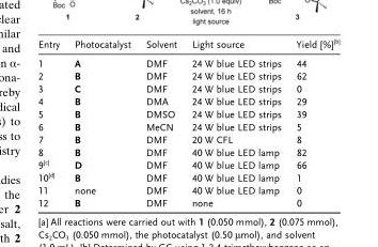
<table><thead><tr><td>Entry</td><td>Photocatalyst</td><td>Solvent</td><td>Light source</td><td>Yield [%]<sup>[b]</sup></td></tr></thead><tbody><tr><td>1</td><td>A</td><td>DMF</td><td>24 W blue LED strips</td><td>44</td></tr><tr><td>2</td><td>B</td><td>DMF</td><td>24 W blue LED strips</td><td>62</td></tr><tr><td>3</td><td>C</td><td>DMF</td><td>24 W blue LED strips</td><td>0</td></tr><tr><td>4</td><td>B</td><td>DMA</td><td>24 W blue LED strips</td><td>29</td></tr><tr><td>5</td><td>B</td><td>DMSO</td><td>24 W blue LED strips</td><td>39</td></tr><tr><td>6</td><td>B</td><td>MeCN</td><td>24 W blue LED strips</td><td>5</td></tr><tr><td>7</td><td>B</td><td>DMF</td><td>20 W CFL</td><td>8</td></tr><tr><td>8</td><td>B</td><td>DMF</td><td>40 W blue LED lamp</td><td>82</td></tr><tr><td>9<sup>[c]</sup></td><td>D</td><td>DMF</td><td>40 W blue LED lamp</td><td>66</td></tr><tr><td>10<sup>[d]</sup></td><td>B</td><td>DMF</td><td>40 W blue LED lamp</td><td>1</td></tr><tr><td>11</td><td>none</td><td>DMF</td><td>40 W blue LED lamp</td><td>0</td></tr><tr><td>12</td><td>B</td><td>DMF</td><td>none</td><td>0</td></tr></tbody></table>